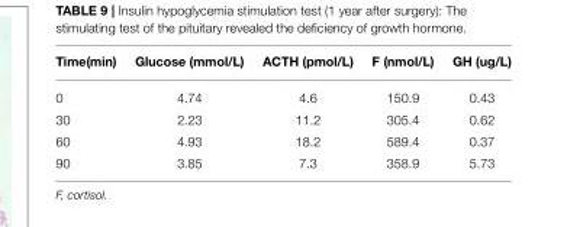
<table><thead><tr><td>Time(min)</td><td>Glucose (mmol/L)</td><td>ACTH (pmol/L)</td><td>F (nmol/L)</td><td>GH (ug/L)</td></tr></thead><tbody><tr><td>0</td><td>4.74</td><td>4.6</td><td>150.9</td><td>0.43</td></tr><tr><td>30</td><td>2.23</td><td>11.2</td><td>305.4</td><td>0.62</td></tr><tr><td>60</td><td>4.93</td><td>18.2</td><td>589.4</td><td>0.37</td></tr><tr><td>90</td><td>3.85</td><td>7.3</td><td>358.9</td><td>5.73</td></tr></tbody></table>